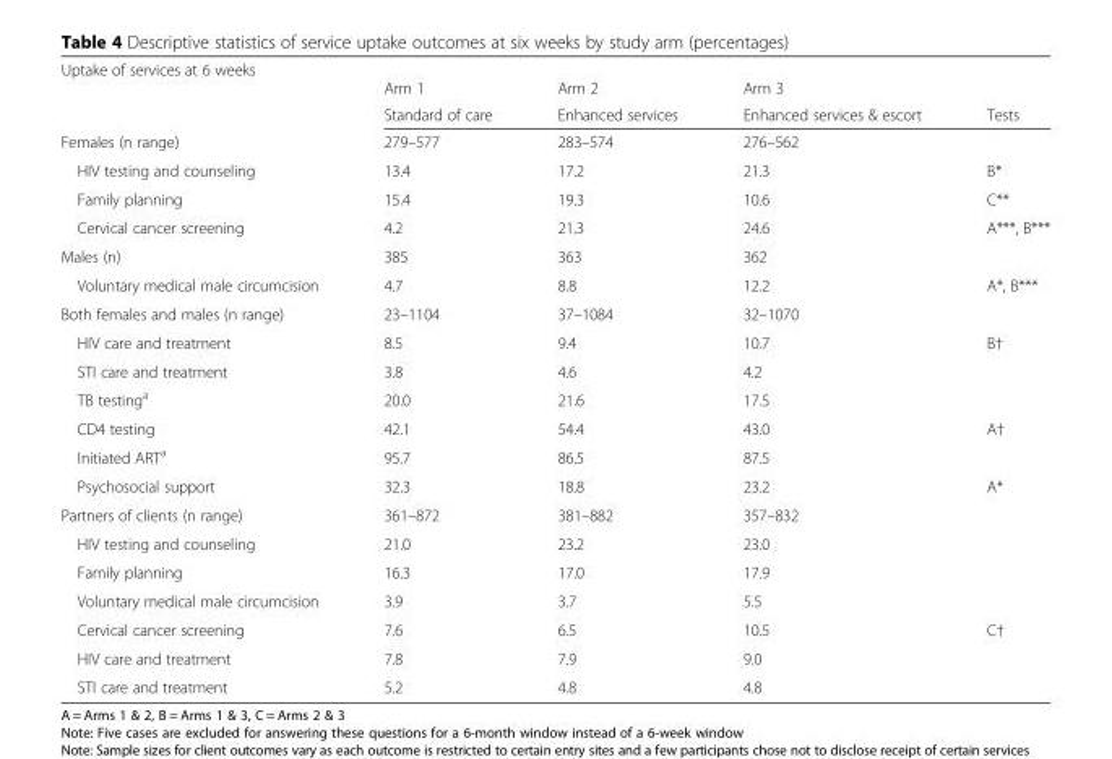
<table><thead><tr><td colspan="5">Uptake of services at 6 weeks</td></tr><tr><td rowspan="2"></td><td rowspan="2">Arm 1 Standard of care</td><td rowspan="2">Arm 2 Enhanced services</td><td rowspan="2">Arm 3 Enhanced services &amp; escort</td><td rowspan="2">Tests</td></tr><tr></tr></thead><tbody><tr><td>Females (n range)</td><td>279–577</td><td>283–574</td><td>276–562</td><td></td></tr><tr><td>HIV testing and counseling</td><td>13.4</td><td>17.2</td><td>21.3</td><td>B*</td></tr><tr><td>Family planning</td><td>15.4</td><td>19.3</td><td>10.6</td><td>C**</td></tr><tr><td>Cervical cancer screening</td><td>4.2</td><td>21.3</td><td>24.6</td><td>A***, B***</td></tr><tr><td>Males (n)</td><td>385</td><td>363</td><td>362</td><td></td></tr><tr><td>Voluntary medical male circumcision</td><td>4.7</td><td>8.8</td><td>12.2</td><td>A*, B***</td></tr><tr><td>Both females and males (n range)</td><td>23–1104</td><td>37–1084</td><td>32–1070</td><td></td></tr><tr><td>HIV care and treatment</td><td>8.5</td><td>9.4</td><td>10.7</td><td>B†</td></tr><tr><td>STI care and treatment</td><td>3.8</td><td>4.6</td><td>4.2</td><td></td></tr><tr><td>TB testing<sup>a</sup></td><td>20.0</td><td>21.6</td><td>17.5</td><td></td></tr><tr><td>CD4 testing</td><td>42.1</td><td>54.4</td><td>43.0</td><td>A†</td></tr><tr><td>Initiated ART<sup>a</sup></td><td>95.7</td><td>86.5</td><td>87.5</td><td></td></tr><tr><td>Psychosocial support</td><td>32.3</td><td>18.8</td><td>23.2</td><td>A*</td></tr><tr><td>Partners of clients (n range)</td><td>361–872</td><td>381–882</td><td>357–832</td><td></td></tr><tr><td>HIV testing and counseling</td><td>21.0</td><td>23.2</td><td>23.0</td><td></td></tr><tr><td>Family planning</td><td>16.3</td><td>17.0</td><td>17.9</td><td></td></tr><tr><td>Voluntary medical male circumcision</td><td>3.9</td><td>3.7</td><td>5.5</td><td></td></tr><tr><td>Cervical cancer screening</td><td>7.6</td><td>6.5</td><td>10.5</td><td>C†</td></tr><tr><td>HIV care and treatment</td><td>7.8</td><td>7.9</td><td>9.0</td><td></td></tr><tr><td>STI care and treatment</td><td>5.2</td><td>4.8</td><td>4.8</td><td></td></tr></tbody></table>